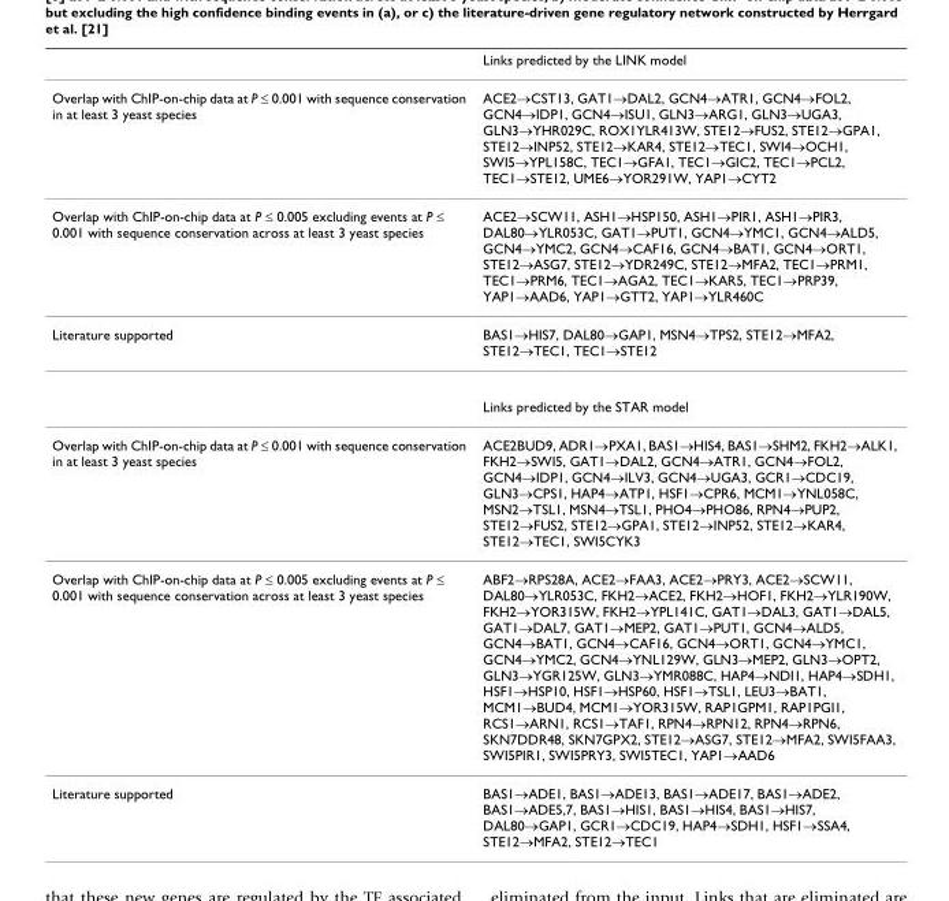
<table><thead><tr><td></td><td>Links predicted by the LINK model</td></tr></thead><tbody><tr><td>Overlap with ChIP-on-chip data at P ≤ 0.001 with sequence conservation in at least 3 yeast species</td><td>ACE2→CST13, GAT1→DAL2, GCN4→ATR1, GCN4→FOL2, GCN4→IDP1, GCN4→ISU1, GLN3→ARG1, GLN3→UGA3, GLN3→YHR029C, ROX1YLR413W, STE12→FUS2, STE12→GPA1, STE12→INP52, STE12→KAR4, STE12→TEC1, SWI4→OCH1, SWI5→YPL158C, TEC1→GFA1, TEC1→GIC2, TEC1→PCL2, TEC1→STE12, UME6→YOR291W, YAP1→CYT2</td></tr><tr><td>Overlap with ChIP-on-chip data at P ≤ 0.005 excluding events at P ≤ 0.001 with sequence conservation across at least 3 yeast species</td><td>ACE2→SCW11, ASH1→HSP150, ASH1→PIR1, ASH1→PIR3, DAL80→YLR053C, GAT1→PUT1, GCN4→YMC1, GCN4→ALD5, GCN4→YMC2, GCN4→CAF16, GCN4→BAT1, GCN4→ORT1, STE12→ASG7, STE12→YDR249C, STE12→MFA2, TEC1→PRM1, TEC1→PRM6, TEC1→AGA2, TEC1→KAR5, TEC1→PRP39, YAP1→AAD6, YAP1→GTT2, YAP1→YLR460C</td></tr><tr><td rowspan="2">Literature supported</td><td>BAS1→HIS7, DAL80→GAP1, MSN4→TPS2, STE12→MFA2, STE12→TEC1, TEC1→STE12</td></tr><tr><td>Links predicted by the STAR model</td></tr><tr><td>Overlap with ChIP-on-chip data at P ≤ 0.001 with sequence conservation in at least 3 yeast species</td><td>ACE2BUD9, ADR1→PXA1, BAS1→HIS4, BAS1→SHM2, FKH2→ALK1, FKH2→SWI5, GAT1→DAL2, GCN4→ATR1, GCN4→FOL2, GCN4→IDP1, GCN4→ILV3, GCN4→UGA3, GCR1→CDC19, GLN3→CPS1, HAP4→ATP1, HSF1→CPR6, MCM1→YNL058C, MSN2→TSL1, MSN4→TSL1, PHO4→PHO86, RPN4→PUP2, STE12→FUS2, STE12→GPA1, STE12→INP52, STE12→KAR4, STE12→TEC1, SWI5CYK3</td></tr><tr><td>Overlap with ChIP-on-chip data at P ≤ 0.005 excluding events at P ≤ 0.001 with sequence conservation across at least 3 yeast species</td><td>ABF2→RPS28A, ACE2→FAA3, ACE2→PRY3, ACE2→SCW11, DAL80→YLR053C, FKH2→ACE2, FKH2→HOF1, FKH2→YLR190W, FKH2→YOR315W, FKH2→YPL141C, GAT1→DAL3, GAT1→DAL5, GAT1→DAL7, GAT1→MEP2, GAT1→PUT1, GCN4→ALD5, GCN4→BAT1, GCN4→CAF16, GCN4→ORT1, GCN4→YMC1, GCN4→YMC2, GCN4→YNL129W, GLN3→MEP2, GLN3→OPT2, GLN3→YGR125W, GLN3→YMR088C, HAP4→NDI1, HAP4→SDH1, HSF1→HSP10, HSF1→HSP60, HSF1→TSL1, LEU3→BAT1, MCM1→BUD4, MCM1→YOR315W, RAP1GPM1, RAP1PGI1, RCS1→ARN1, RCS1→TAF1, RPN4→RPN12, RPN4→RPN6, SKN7DDR48, SKN7GPX2, STE12→ASG7, STE12→MFA2, SWI5FAA3, SWI5PIR1, SWI5PRY3, SWI5TEC1, YAP1→AAD6</td></tr><tr><td>Literature supported</td><td>BAS1→ADE1, BAS1→ADE13, BAS1→ADE17, BAS1→ADE2, BAS1→ADE5,7, BAS1→HIS1, BAS1→HIS4, BAS1→HIS7, DAL80→GAP1, GCR1→CDC19, HAP4→SDH1, HSF1→SSA4, STE12→MFA2, STE12→TEC1</td></tr></tbody></table>